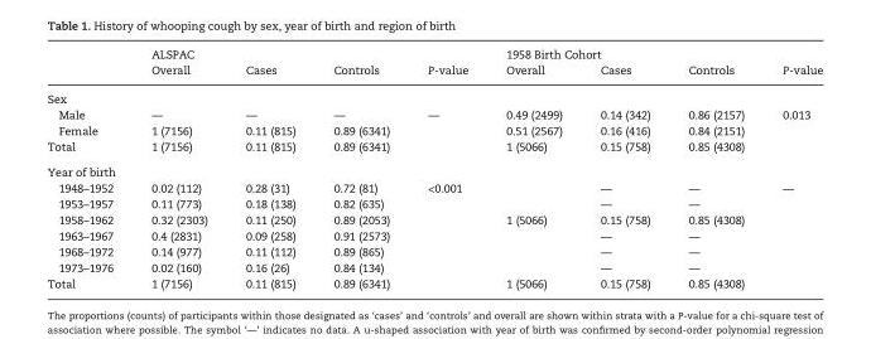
<table><thead><tr><td rowspan="2"></td><td colspan="4">ALSPAC</td><td colspan="4">1958 Birth Cohort</td></tr><tr><td>Overall</td><td>Cases</td><td>Controls</td><td>P-value</td><td>Overall</td><td>Cases</td><td>Controls</td><td>P-value</td></tr></thead><tbody><tr><td colspan="9">Sex</td></tr><tr><td>Male</td><td>—</td><td>—</td><td>—</td><td>—</td><td>0.49 (2499)</td><td>0.14 (342)</td><td>0.86 (2157)</td><td rowspan="3">0.013</td></tr><tr><td>Female</td><td>1 (7156)</td><td>0.11 (815)</td><td>0.89 (6341)</td><td></td><td>0.51 (2567)</td><td>0.16 (416)</td><td>0.84 (2151)</td></tr><tr><td>Total</td><td>1 (7156)</td><td>0.11 (815)</td><td>0.89 (6341)</td><td></td><td>1 (5066)</td><td>0.15 (758)</td><td>0.85 (4308)</td></tr><tr><td colspan="9">Year of birth</td></tr><tr><td>1948–1952</td><td>0.02 (112)</td><td>0.28 (31)</td><td>0.72 (81)</td><td rowspan="7">&lt;0.001</td><td></td><td>—</td><td>—</td><td>—</td></tr><tr><td>1953–1957</td><td>0.11 (773)</td><td>0.18 (138)</td><td>0.82 (635)</td><td></td><td>—</td><td>—</td><td></td></tr><tr><td>1958–1962</td><td>0.32 (2303)</td><td>0.11 (250)</td><td>0.89 (2053)</td><td>1 (5066)</td><td>0.15 (758)</td><td>0.85 (4308)</td><td></td></tr><tr><td>1963–1967</td><td>0.4 (2831)</td><td>0.09 (258)</td><td>0.91 (2573)</td><td></td><td>—</td><td>—</td><td></td></tr><tr><td>1968–1972</td><td>0.14 (977)</td><td>0.11 (112)</td><td>0.89 (865)</td><td></td><td>—</td><td>—</td><td></td></tr><tr><td>1973–1976</td><td>0.02 (160)</td><td>0.16 (26)</td><td>0.84 (134)</td><td></td><td>—</td><td>—</td><td></td></tr><tr><td>Total</td><td>1 (7156)</td><td>0.11 (815)</td><td>0.89 (6341)</td><td>1 (5066)</td><td>0.15 (758)</td><td>0.85 (4308)</td><td></td></tr></tbody></table>